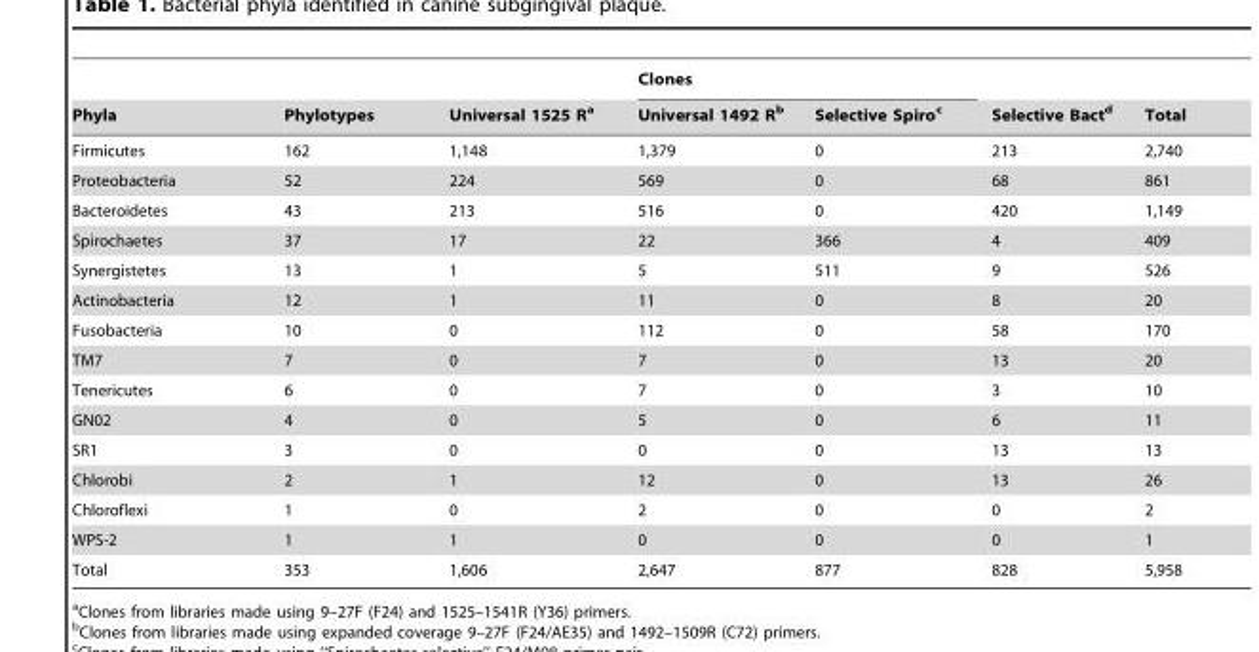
<table><thead><tr><td rowspan="2">Phyla</td><td rowspan="2">Phylotypes</td><td rowspan="2">Universal 1525 R<sup>a</sup></td><td colspan="2">Clones</td><td rowspan="2">Selective Bact<sup>d</sup></td><td rowspan="2">Total</td></tr><tr><td>Universal 1492 R<sup>b</sup></td><td>Selective Spiro<sup>c</sup></td></tr></thead><tbody><tr><td>Firmicutes</td><td>162</td><td>1,148</td><td>1,379</td><td>0</td><td>213</td><td>2,740</td></tr><tr><td>Proteobacteria</td><td>52</td><td>224</td><td>569</td><td>0</td><td>68</td><td>861</td></tr><tr><td>Bacteroidetes</td><td>43</td><td>213</td><td>516</td><td>0</td><td>420</td><td>1,149</td></tr><tr><td>Spirochaetes</td><td>37</td><td>17</td><td>22</td><td>366</td><td>4</td><td>409</td></tr><tr><td>Synergistetes</td><td>13</td><td>1</td><td>5</td><td>511</td><td>9</td><td>526</td></tr><tr><td>Actinobacteria</td><td>12</td><td>1</td><td>11</td><td>0</td><td>8</td><td>20</td></tr><tr><td>Fusobacteria</td><td>10</td><td>0</td><td>112</td><td>0</td><td>58</td><td>170</td></tr><tr><td>TM7</td><td>7</td><td>0</td><td>7</td><td>0</td><td>13</td><td>20</td></tr><tr><td>Tenericutes</td><td>6</td><td>0</td><td>7</td><td>0</td><td>3</td><td>10</td></tr><tr><td>GN02</td><td>4</td><td>0</td><td>5</td><td>0</td><td>6</td><td>11</td></tr><tr><td>SR1</td><td>3</td><td>0</td><td>0</td><td>0</td><td>13</td><td>13</td></tr><tr><td>Chlorobi</td><td>2</td><td>1</td><td>12</td><td>0</td><td>13</td><td>26</td></tr><tr><td>Chloroflexi</td><td>1</td><td>0</td><td>2</td><td>0</td><td>0</td><td>2</td></tr><tr><td>WPS-2</td><td>1</td><td>1</td><td>0</td><td>0</td><td>0</td><td>1</td></tr><tr><td>Total</td><td>353</td><td>1,606</td><td>2,647</td><td>877</td><td>828</td><td>5,958</td></tr></tbody></table>